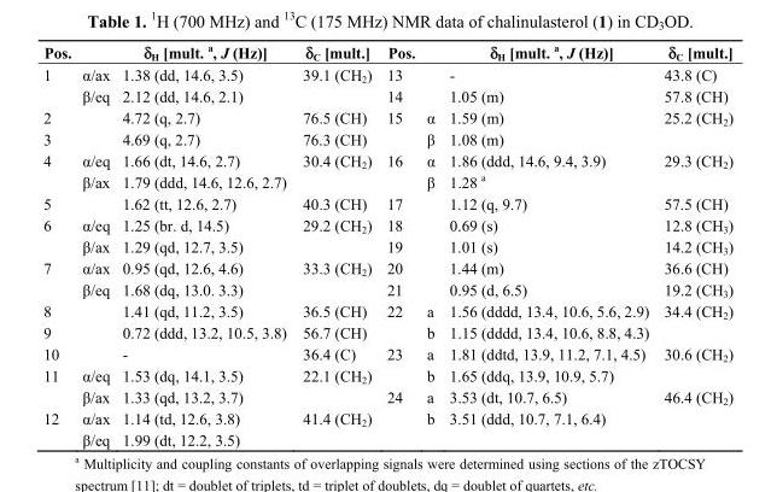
<table><thead><tr><td>Pos.</td><td></td><td>δ<sub>H</sub> [mult. <sup>a</sup>, J (Hz)]</td><td>δ<sub>C</sub> [mult.]</td><td>Pos.</td><td></td><td>δ<sub>H</sub> [mult. <sup>a</sup>, J (Hz)]</td><td>δ<sub>C</sub> [mult.]</td></tr></thead><tbody><tr><td rowspan="2">1</td><td>α/ax</td><td>1.38 (dd, 14.6, 3.5)</td><td>39.1 (CH<sub>2</sub>)</td><td>13</td><td></td><td>-</td><td>43.8 (C)</td></tr><tr><td>β/eq</td><td>2.12 (dd, 14.6, 2.1)</td><td></td><td>14</td><td></td><td>1.05 (m)</td><td>57.8 (CH)</td></tr><tr><td>2</td><td></td><td>4.72 (q, 2.7)</td><td>76.5 (CH)</td><td>15</td><td>α</td><td>1.59 (m)</td><td>25.2 (CH<sub>2</sub>)</td></tr><tr><td>3</td><td></td><td>4.69 (q, 2.7)</td><td>76.3 (CH)</td><td></td><td>β</td><td>1.08 (m)</td><td></td></tr><tr><td rowspan="2">4</td><td>α/eq</td><td>1.66 (dt, 14.6, 2.7)</td><td>30.4 (CH<sub>2</sub>)</td><td>16</td><td>α</td><td>1.86 (ddd, 14.6, 9.4, 3.9)</td><td>29.3 (CH<sub>2</sub>)</td></tr><tr><td>β/ax</td><td>1.79 (ddd, 14.6, 12.6, 2.7)</td><td></td><td></td><td>β</td><td>1.28 <sup>a</sup></td><td></td></tr><tr><td>5</td><td></td><td>1.62 (tt, 12.6, 2.7)</td><td>40.3 (CH)</td><td>17</td><td></td><td>1.12 (q, 9.7)</td><td>57.5 (CH)</td></tr><tr><td rowspan="2">6</td><td>α/eq</td><td>1.25 (br. d, 14.5)</td><td>29.2 (CH<sub>2</sub>)</td><td>18</td><td></td><td>0.69 (s)</td><td>12.8 (CH<sub>3</sub>)</td></tr><tr><td>β/ax</td><td>1.29 (qd, 12.7, 3.5)</td><td></td><td>19</td><td></td><td>1.01 (s)</td><td>14.2 (CH<sub>3</sub>)</td></tr><tr><td rowspan="2">7</td><td>α/ax</td><td>0.95 (qd, 12.6, 4.6)</td><td>33.3 (CH<sub>2</sub>)</td><td>20</td><td></td><td>1.44 (m)</td><td>36.6 (CH)</td></tr><tr><td>β/eq</td><td>1.68 (dq, 13.0. 3.3)</td><td></td><td>21</td><td></td><td>0.95 (d, 6.5)</td><td>19.2 (CH<sub>3</sub>)</td></tr><tr><td>8</td><td></td><td>1.41 (qd, 11.2, 3.5)</td><td>36.5 (CH)</td><td>22</td><td>a</td><td>1.56 (dddd, 13.4, 10.6, 5.6, 2.9)</td><td>34.4 (CH<sub>2</sub>)</td></tr><tr><td>9</td><td></td><td>0.72 (ddd, 13.2, 10.5, 3.8)</td><td>56.7 (CH)</td><td></td><td>b</td><td>1.15 (dddd, 13.4, 10.6, 8.8, 4.3)</td><td></td></tr><tr><td>10</td><td></td><td>-</td><td>36.4 (C)</td><td>23</td><td>a</td><td>1.81 (ddtd, 13.9, 11.2, 7.1, 4.5)</td><td>30.6 (CH<sub>2</sub>)</td></tr><tr><td rowspan="2">11</td><td>α/eq</td><td>1.53 (dq, 14.1, 3.5)</td><td>22.1 (CH<sub>2</sub>)</td><td></td><td>b</td><td>1.65 (ddq, 13.9, 10.9, 5.7)</td><td></td></tr><tr><td>β/ax</td><td>1.33 (qd, 13.2, 3.7)</td><td></td><td>24</td><td>a</td><td>3.53 (dt, 10.7, 6.5)</td><td>46.4 (CH<sub>2</sub>)</td></tr><tr><td rowspan="2">12</td><td>α/ax</td><td>1.14 (td, 12.6, 3.8)</td><td>41.4 (CH<sub>2</sub>)</td><td></td><td>b</td><td>3.51 (ddd, 10.7, 7.1, 6.4)</td><td></td></tr><tr><td>β/eq</td><td>1.99 (dt, 12.2, 3.5)</td><td></td><td></td><td></td><td></td><td></td></tr></tbody></table>